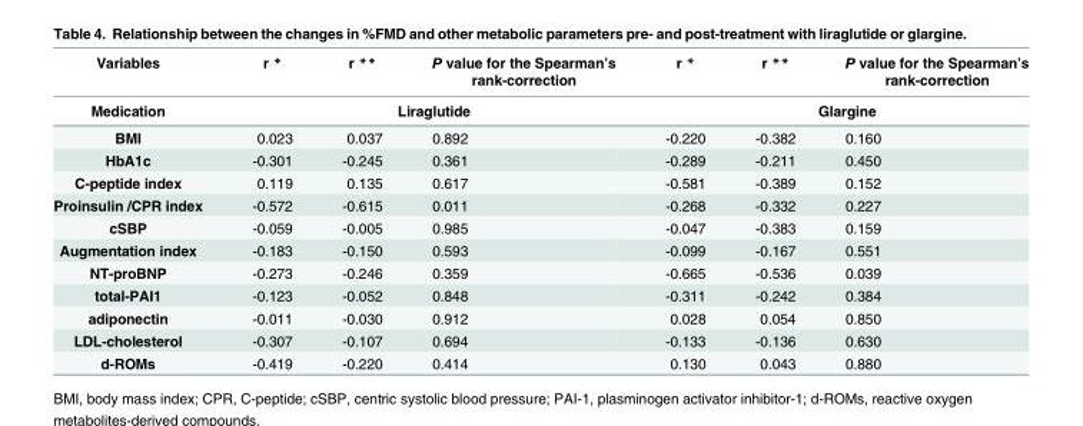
<table><thead><tr><td rowspan="2">Variables Medication</td><td>r *</td><td>r **</td><td>P value for the Spearman’s rank-correction</td><td>r *</td><td>r **</td><td>P value for the Spearman’s rank-correction</td></tr><tr><td colspan="3">Liraglutide</td><td colspan="3">Glargine</td></tr></thead><tbody><tr><td>BMI</td><td>0.023</td><td>0.037</td><td>0.892</td><td>-0.220</td><td>-0.382</td><td>0.160</td></tr><tr><td>HbA1c</td><td>-0.301</td><td>-0.245</td><td>0.361</td><td>-0.289</td><td>-0.211</td><td>0.450</td></tr><tr><td>C-peptide index</td><td>0.119</td><td>0.135</td><td>0.617</td><td>-0.581</td><td>-0.389</td><td>0.152</td></tr><tr><td>Proinsulin /CPR index</td><td>-0.572</td><td>-0.615</td><td>0.011</td><td>-0.268</td><td>-0.332</td><td>0.227</td></tr><tr><td>cSBP</td><td>-0.059</td><td>-0.005</td><td>0.985</td><td>-0.047</td><td>-0.383</td><td>0.159</td></tr><tr><td>Augmentation index</td><td>-0.183</td><td>-0.150</td><td>0.593</td><td>-0.099</td><td>-0.167</td><td>0.551</td></tr><tr><td>NT-proBNP</td><td>-0.273</td><td>-0.246</td><td>0.359</td><td>-0.665</td><td>-0.536</td><td>0.039</td></tr><tr><td>total-PAI1</td><td>-0.123</td><td>-0.052</td><td>0.848</td><td>-0.311</td><td>-0.242</td><td>0.384</td></tr><tr><td>adiponectin</td><td>-0.011</td><td>-0.030</td><td>0.912</td><td>0.028</td><td>0.054</td><td>0.850</td></tr><tr><td>LDL-cholesterol</td><td>-0.307</td><td>-0.107</td><td>0.694</td><td>-0.133</td><td>-0.136</td><td>0.630</td></tr><tr><td>d-ROMs</td><td>-0.419</td><td>-0.220</td><td>0.414</td><td>0.130</td><td>0.043</td><td>0.880</td></tr></tbody></table>